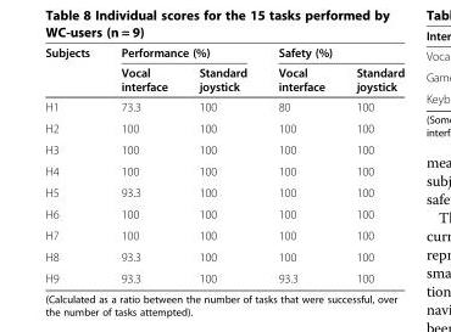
<table><thead><tr><td rowspan="2">Subjects</td><td colspan="2">Performance (%)</td><td colspan="2">Safety (%)</td></tr><tr><td>Vocal interface</td><td>Standard joystick</td><td>Vocal interface</td><td>Standard joystick</td></tr></thead><tbody><tr><td>H1</td><td>73.3</td><td>100</td><td>80</td><td>100</td></tr><tr><td>H2</td><td>100</td><td>100</td><td>100</td><td>100</td></tr><tr><td>H3</td><td>100</td><td>100</td><td>100</td><td>100</td></tr><tr><td>H4</td><td>100</td><td>100</td><td>100</td><td>100</td></tr><tr><td>H5</td><td>93.3</td><td>100</td><td>100</td><td>100</td></tr><tr><td>H6</td><td>100</td><td>100</td><td>100</td><td>100</td></tr><tr><td>H7</td><td>100</td><td>100</td><td>100</td><td>100</td></tr><tr><td>H8</td><td>93.3</td><td>100</td><td>100</td><td>100</td></tr><tr><td>H9</td><td>93.3</td><td>100</td><td>93.3</td><td>100</td></tr></tbody></table>